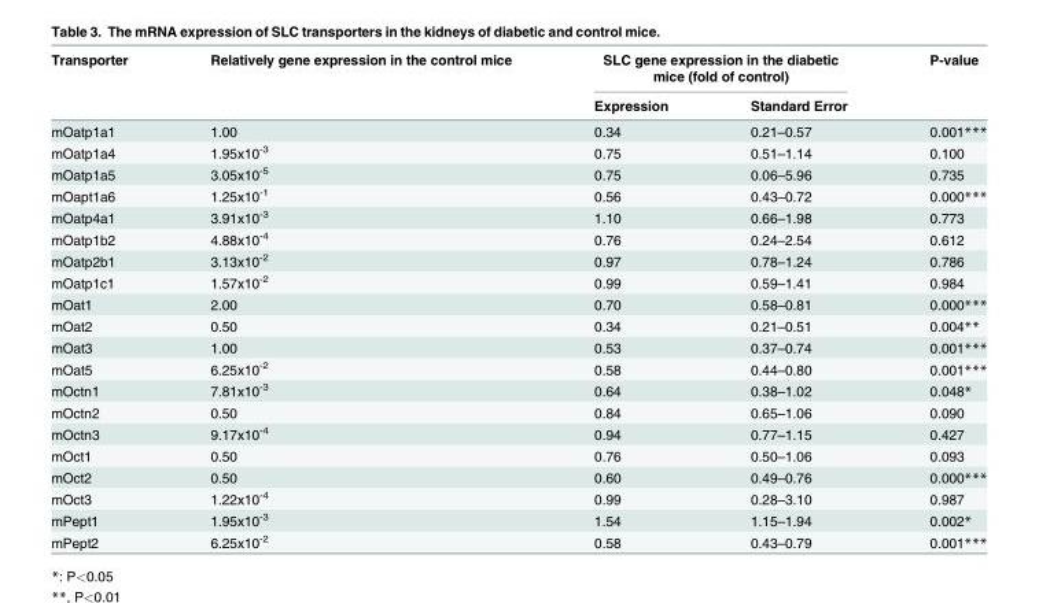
<table><thead><tr><td rowspan="2">Transporter</td><td rowspan="2">Relatively gene expression in the control mice</td><td colspan="2">SLC gene expression in the diabetic mice (fold of control)</td><td rowspan="2">P-value</td></tr><tr><td>Expression</td><td>Standard Error</td></tr></thead><tbody><tr><td>mOatp1a1</td><td>1.00</td><td>0.34</td><td>0.21–0.57</td><td>0.001***</td></tr><tr><td>mOatp1a4</td><td>1.95x10<sup>-3</sup></td><td>0.75</td><td>0.51–1.14</td><td>0.100</td></tr><tr><td>mOatp1a5</td><td>3.05x10<sup>-5</sup></td><td>0.75</td><td>0.06–5.96</td><td>0.735</td></tr><tr><td>mOapt1a6</td><td>1.25x10<sup>-1</sup></td><td>0.56</td><td>0.43–0.72</td><td>0.000***</td></tr><tr><td>mOatp4a1</td><td>3.91x10<sup>-3</sup></td><td>1.10</td><td>0.66–1.98</td><td>0.773</td></tr><tr><td>mOatp1b2</td><td>4.88x10<sup>-4</sup></td><td>0.76</td><td>0.24–2.54</td><td>0.612</td></tr><tr><td>mOatp2b1</td><td>3.13x10<sup>-2</sup></td><td>0.97</td><td>0.78–1.24</td><td>0.786</td></tr><tr><td>mOatp1c1</td><td>1.57x10<sup>-2</sup></td><td>0.99</td><td>0.59–1.41</td><td>0.984</td></tr><tr><td>mOat1</td><td>2.00</td><td>0.70</td><td>0.58–0.81</td><td>0.000***</td></tr><tr><td>mOat2</td><td>0.50</td><td>0.34</td><td>0.21–0.51</td><td>0.004**</td></tr><tr><td>mOat3</td><td>1.00</td><td>0.53</td><td>0.37–0.74</td><td>0.001***</td></tr><tr><td>mOat5</td><td>6.25x10<sup>-2</sup></td><td>0.58</td><td>0.44–0.80</td><td>0.001***</td></tr><tr><td>mOctn1</td><td>7.81x10<sup>-3</sup></td><td>0.64</td><td>0.38–1.02</td><td>0.048*</td></tr><tr><td>mOctn2</td><td>0.50</td><td>0.84</td><td>0.65–1.06</td><td>0.090</td></tr><tr><td>mOctn3</td><td>9.17x10<sup>-4</sup></td><td>0.94</td><td>0.77–1.15</td><td>0.427</td></tr><tr><td>mOct1</td><td>0.50</td><td>0.76</td><td>0.50–1.06</td><td>0.093</td></tr><tr><td>mOct2</td><td>0.50</td><td>0.60</td><td>0.49–0.76</td><td>0.000***</td></tr><tr><td>mOct3</td><td>1.22x10<sup>-4</sup></td><td>0.99</td><td>0.28–3.10</td><td>0.987</td></tr><tr><td>mPept1</td><td>1.95x10<sup>-3</sup></td><td>1.54</td><td>1.15–1.94</td><td>0.002*</td></tr><tr><td>mPept2</td><td>6.25x10<sup>-2</sup></td><td>0.58</td><td>0.43–0.79</td><td>0.001***</td></tr></tbody></table>